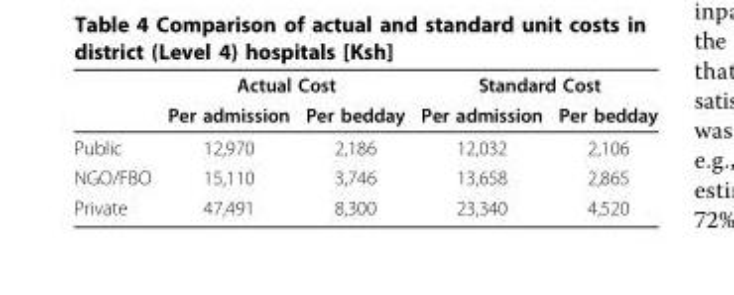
<table><thead><tr><td rowspan="2"></td><td colspan="2">Actual Cost</td><td colspan="2">Standard Cost</td></tr><tr><td>Per admission</td><td>Per bedday</td><td>Per admission</td><td>Per bedday</td></tr></thead><tbody><tr><td>Public</td><td>12,970</td><td>2,186</td><td>12,032</td><td>2,106</td></tr><tr><td>NGO/FBO</td><td>15,110</td><td>3,746</td><td>13,658</td><td>2,865</td></tr><tr><td>Private</td><td>47,491</td><td>8,300</td><td>23,340</td><td>4,520</td></tr></tbody></table>